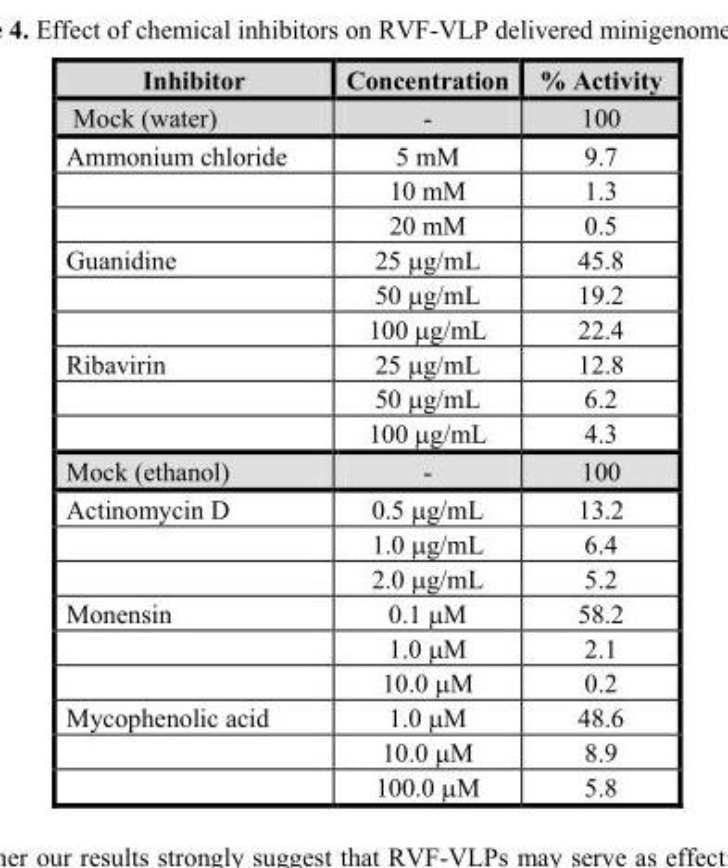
<table><thead><tr><td>Inhibitor</td><td>Concentration</td><td>% Activity</td></tr></thead><tbody><tr><td>Mock (water)</td><td>-</td><td>100</td></tr><tr><td rowspan="3">Ammonium chloride</td><td>5 mM</td><td>9.7</td></tr><tr><td>10 mM</td><td>1.3</td></tr><tr><td>20 mM</td><td>0.5</td></tr><tr><td rowspan="3">Guanidine</td><td>25 µg/mL</td><td>45.8</td></tr><tr><td>50 µg/mL</td><td>19.2</td></tr><tr><td>100 µg/mL</td><td>22.4</td></tr><tr><td rowspan="3">Ribavirin</td><td>25 µg/mL</td><td>12.8</td></tr><tr><td>50 µg/mL</td><td>6.2</td></tr><tr><td>100 µg/mL</td><td>4.3</td></tr><tr><td>Mock (ethanol)</td><td>-</td><td>100</td></tr><tr><td rowspan="3">Actinomycin D</td><td>0.5 µg/mL</td><td>13.2</td></tr><tr><td>1.0 µg/mL</td><td>6.4</td></tr><tr><td>2.0 µg/mL</td><td>5.2</td></tr><tr><td rowspan="3">Monensin</td><td>0.1 µM</td><td>58.2</td></tr><tr><td>1.0 µM</td><td>2.1</td></tr><tr><td>10.0 µM</td><td>0.2</td></tr><tr><td rowspan="3">Mycophenolic acid</td><td>1.0 µM</td><td>48.6</td></tr><tr><td>10.0 µM</td><td>8.9</td></tr><tr><td>100.0 µM</td><td>5.8</td></tr></tbody></table>